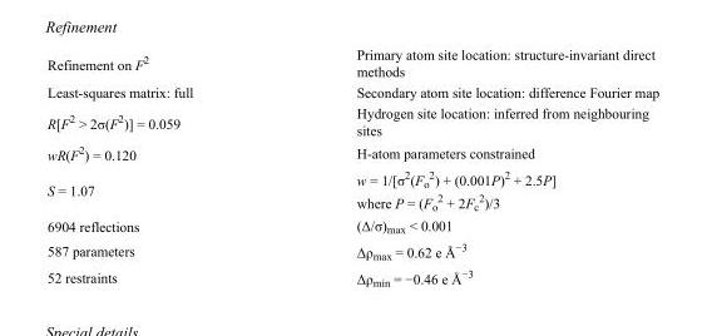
<table><tbody><tr><td>Refinement on F<sup>2</sup></td><td>Primary atom site location: structure-invariant direct methods</td></tr><tr><td>Least-squares matrix: full</td><td>Secondary atom site location: difference Fourier map</td></tr><tr><td>R[F<sup>2</sup> &gt; 2σ(F<sup>2</sup>)] = 0.059</td><td>Hydrogen site location: inferred from neighbouring sites</td></tr><tr><td>wR(F<sup>2</sup>) = 0.120</td><td>H-atom parameters constrained</td></tr><tr><td>S = 1.07</td><td>w = 1/[σ<sup>2</sup>(F<sub>o</sub> <sup>2</sup>) + (0.001P)<sup>2</sup> + 2.5P] where P = (F<sub>o</sub> <sup>2</sup> + 2F<sub>c</sub> <sup>2</sup>)/3</td></tr><tr><td>6904 reflections</td><td>(Δ/σ)<sub>max</sub> &lt; 0.001</td></tr><tr><td>587 parameters</td><td>Δρ<sub>max</sub> = 0.62 e Å<sup>−3</sup></td></tr><tr><td>52 restraints</td><td>Δρ<sub>min</sub> = −0.46 e Å<sup>−3</sup></td></tr></tbody></table>